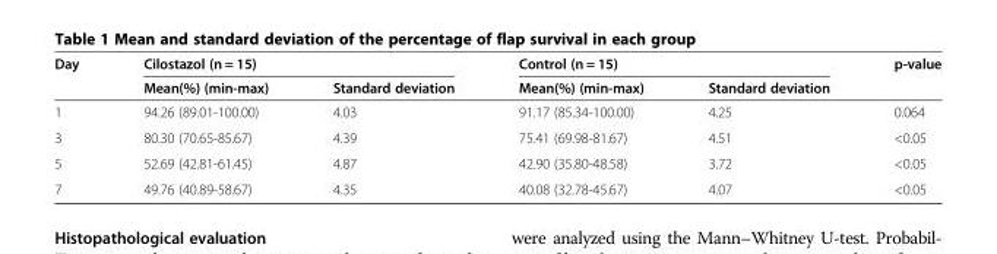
<table><thead><tr><td rowspan="2">Day</td><td colspan="2">Cilostazol (n = 15)</td><td colspan="2">Control (n = 15)</td><td rowspan="2">p-value</td></tr><tr><td>Mean(%) (min-max)</td><td>Standard deviation</td><td>Mean(%) (min-max)</td><td>Standard deviation</td></tr></thead><tbody><tr><td>1</td><td>94.26 (89.01-100.00)</td><td>4.03</td><td>91.17 (85.34-100.00)</td><td>4.25</td><td>0.064</td></tr><tr><td>3</td><td>80.30 (70.65-85.67)</td><td>4.39</td><td>75.41 (69.98-81.67)</td><td>4.51</td><td>&lt;0.05</td></tr><tr><td>5</td><td>52.69 (42.81-61.45)</td><td>4.87</td><td>42.90 (35.80-48.58)</td><td>3.72</td><td>&lt;0.05</td></tr><tr><td>7</td><td>49.76 (40.89-58.67)</td><td>4.35</td><td>40.08 (32.78-45.67)</td><td>4.07</td><td>&lt;0.05</td></tr></tbody></table>